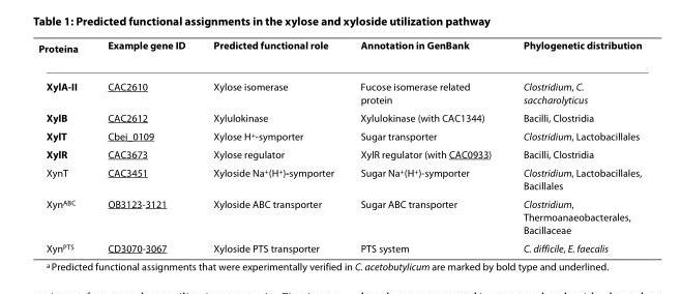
<table><thead><tr><td>Protein<sup>a</sup></td><td>Example gene ID</td><td>Predicted functional role</td><td>Annotation in GenBank</td><td>Phylogenetic distribution</td></tr></thead><tbody><tr><td>XylA-II</td><td>CAC2610</td><td>Xylose isomerase</td><td>Fucose isomerase related protein</td><td>Clostridium, C. saccharolyticus</td></tr><tr><td>XylB</td><td>CAC2612</td><td>Xylulokinase</td><td>Xylulokinase (with CAC1344)</td><td>Bacilli, Clostridia</td></tr><tr><td>XylT</td><td>Cbei_0109</td><td>Xylose H<sup>+</sup>-symporter</td><td>Sugar transporter</td><td>Clostridium, Lactobacillales</td></tr><tr><td>XylR</td><td>CAC3673</td><td>Xylose regulator</td><td>XylR regulator (with CAC0933)</td><td>Bacilli, Clostridia</td></tr><tr><td>XynT</td><td>CAC3451</td><td>Xyloside Na<sup>+</sup>(H<sup>+</sup>)-symporter</td><td>Sugar Na<sup>+</sup>(H<sup>+</sup>)-symporter</td><td>Clostridium, Lactobacillales, Bacillales</td></tr><tr><td>Xyn<sup>ABC</sup></td><td>OB3123-3121</td><td>Xyloside ABC transporter</td><td>Sugar ABC transporter</td><td>Clostridium, Thermoanaeobacterales, Bacillaceae</td></tr><tr><td>Xyn<sup>PTS</sup></td><td>CD3070-3067</td><td>Xyloside PTS transporter</td><td>PTS system</td><td>C. difficile, E. faecalis</td></tr></tbody></table>